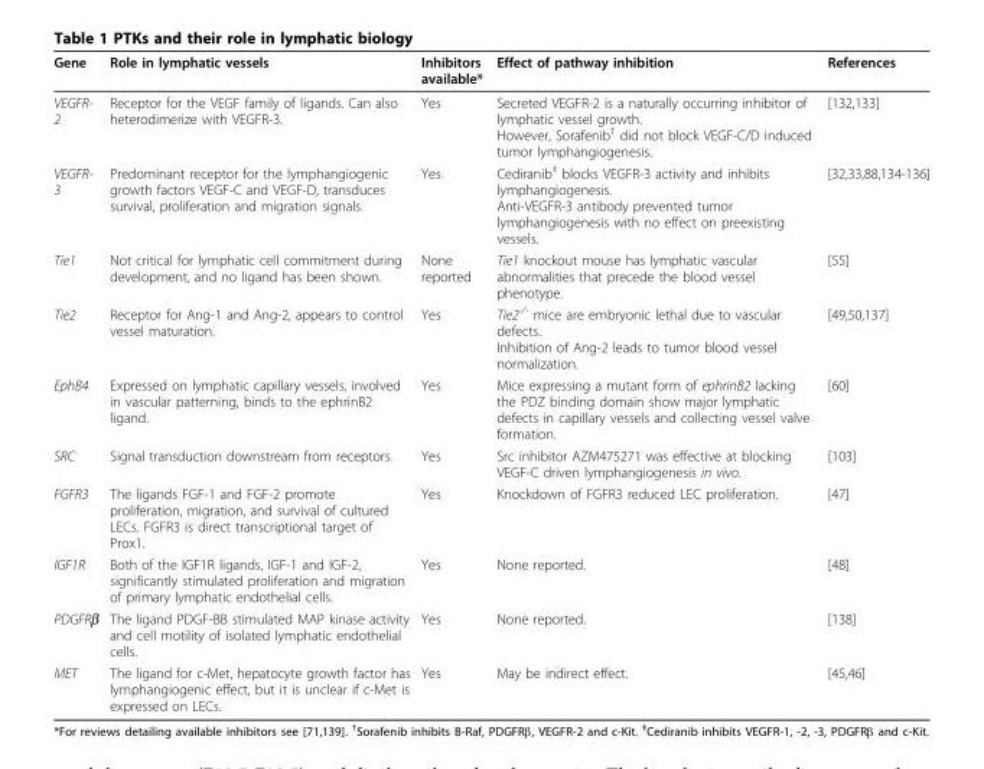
<table><thead><tr><td>Gene</td><td>Role in lymphatic vessels</td><td>Inhibitors available*</td><td>Effect of pathway inhibition</td><td>References</td></tr></thead><tbody><tr><td>VEGFR- 2</td><td>Receptor for the VEGF family of ligands. Can also heterodimerize with VEGFR-3.</td><td>Yes</td><td>Secreted VEGFR-2 is a naturally occurring inhibitor of lymphatic vessel growth. However, Sorafenib<sup>†</sup> did not block VEGF-C/D induced tumor lymphangiogenesis.</td><td>[132,133]</td></tr><tr><td>VEGFR- 3</td><td>Predominant receptor for the lymphangiogenic growth factors VEGF-C and VEGF-D, transduces survival, proliferation and migration signals.</td><td>Yes</td><td>Cediranib<sup>‡</sup> blocks VEGFR-3 activity and inhibits lymphangiogenesis. Anti-VEGFR-3 antibody prevented tumor lymphangiogenesis with no effect on preexisting vessels.</td><td>[32,33,88,134-136]</td></tr><tr><td>Tie1</td><td>Not critical for lymphatic cell commitment during development, and no ligand has been shown.</td><td>None reported</td><td>Tie1 knockout mouse has lymphatic vascular abnormalities that precede the blood vessel phenotype.</td><td>[55]</td></tr><tr><td>Tie2</td><td>Receptor for Ang-1 and Ang-2, appears to control vessel maturation.</td><td>Yes</td><td>Tie2<sup>-/-</sup> mice are embryonic lethal due to vascular defects. Inhibition of Ang-2 leads to tumor blood vessel normalization.</td><td>[49,50,137]</td></tr><tr><td>EphB4</td><td>Expressed on lymphatic capillary vessels, involved in vascular patterning, binds to the ephrinB2 ligand.</td><td>Yes</td><td>Mice expressing a mutant form of ephrinB2 lacking the PDZ binding domain show major lymphatic defects in capillary vessels and collecting vessel valve formation.</td><td>[60]</td></tr><tr><td>SRC</td><td>Signal transduction downstream from receptors.</td><td>Yes</td><td>Src inhibitor AZM475271 was effective at blocking VEGF-C driven lymphangiogenesis in vivo.</td><td>[103]</td></tr><tr><td>FGFR3</td><td>The ligands FGF-1 and FGF-2 promote proliferation, migration, and survival of cultured LECs. FGFR3 is direct transcriptional target of Prox1.</td><td>Yes</td><td>Knockdown of FGFR3 reduced LEC proliferation.</td><td>[47]</td></tr><tr><td>IGF1R</td><td>Both of the IGF1R ligands, IGF-1 and IGF-2, significantly stimulated proliferation and migration of primary lymphatic endothelial cells.</td><td>Yes</td><td>None reported.</td><td>[48]</td></tr><tr><td>PDGFRβ</td><td>The ligand PDGF-BB stimulated MAP kinase activity and cell motility of isolated lymphatic endothelial cells.</td><td>Yes</td><td>None reported.</td><td>[138]</td></tr><tr><td>MET</td><td>The ligand for c-Met, hepatocyte growth factor has lymphangiogenic effect, but it is unclear if c-Met is expressed on LECs.</td><td>Yes</td><td>May be indirect effect.</td><td>[45,46]</td></tr></tbody></table>